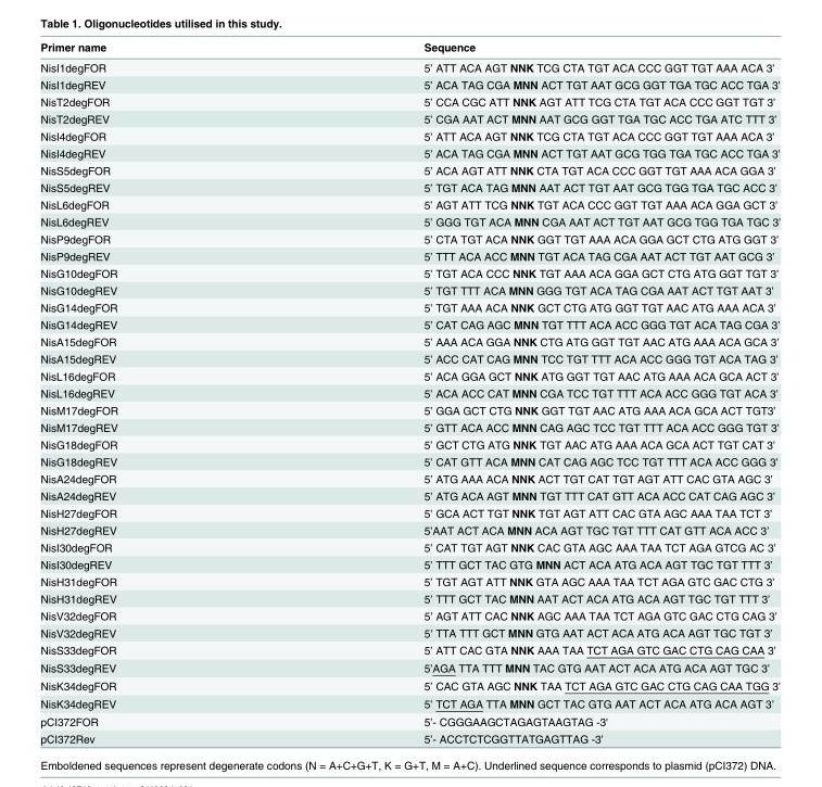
<table><thead><tr><td>Primer name</td><td>Sequence</td></tr></thead><tbody><tr><td>NisI1degFOR</td><td>5’ ATT ACA AGT NNK TCG CTA TGT ACA CCC GGT TGT AAA ACA 3’</td></tr><tr><td>NisI1degREV</td><td>5’ ACA TAG CGA MNN ACT TGT AAT GCG GGT TGA TGC ACC TGA 3’</td></tr><tr><td>NisT2degFOR</td><td>5’ CCA CGC ATT NNK AGT ATT TCG CTA TGT ACA CCC GGT TGT 3’</td></tr><tr><td>NisT2degREV</td><td>5’ CGA AAT ACT MNN AAT GCG GGT TGA TGC ACC TGA ATC TTT 3’</td></tr><tr><td>NisI4degFOR</td><td>5’ ATT ACA AGT NNK TCG CTA TGT ACA CCC GGT TGT AAA ACA 3’</td></tr><tr><td>NisI4degREV</td><td>5’ ACA TAG CGA MNN ACT TGT AAT GCG TGG TGA TGC ACC TGA 3’</td></tr><tr><td>NisS5degFOR</td><td>5’ ACA AGT ATT NNK CTA TGT ACA CCC GGT TGT AAA ACA GGA 3’</td></tr><tr><td>NisS5degREV</td><td>5’ TGT ACA TAG MNN AAT ACT TGT AAT GCG TGG TGA TGC ACC 3’</td></tr><tr><td>NisL6degFOR</td><td>5’ AGT ATT TCG NNK TGT ACA CCC GGT TGT AAA ACA GGA GCT 3’</td></tr><tr><td>NisL6degREV</td><td>5’ GGG TGT ACA MNN CGA AAT ACT TGT AAT GCG TGG TGA TGC 3’</td></tr><tr><td>NisP9degFOR</td><td>5’ CTA TGT ACA NNK GGT TGT AAA ACA GGA GCT CTG ATG GGT 3’</td></tr><tr><td>NisP9degREV</td><td>5’ TTT ACA ACC MNN TGT ACA TAG CGA AAT ACT TGT AAT GCG 3’</td></tr><tr><td>NisG10degFOR</td><td>5’ TGT ACA CCC NNK TGT AAA ACA GGA GCT CTG ATG GGT TGT 3’</td></tr><tr><td>NisG10degREV</td><td>5’ TGT TTT ACA MNN GGG TGT ACA TAG CGA AAT ACT TGT AAT 3’</td></tr><tr><td>NisG14degFOR</td><td>5’ TGT AAA ACA NNK GCT CTG ATG GGT TGT AAC ATG AAA ACA 3’</td></tr><tr><td>NisG14degREV</td><td>5’ CAT CAG AGC MNN TGT TTT ACA ACC GGG TGT ACA TAG CGA 3’</td></tr><tr><td>NisA15degFOR</td><td>5’ AAA ACA GGA NNK CTG ATG GGT TGT AAC ATG AAA ACA GCA 3’</td></tr><tr><td>NisA15degREV</td><td>5’ ACC CAT CAG MNN TCC TGT TTT ACA ACC GGG TGT ACA TAG 3’</td></tr><tr><td>NisL16degFOR</td><td>5’ ACA GGA GCT NNK ATG GGT TGT AAC ATG AAA ACA GCA ACT 3’</td></tr><tr><td>NisL16degREV</td><td>5’ ACA ACC CAT MNN CGA TCC TGT TTT ACA ACC GGG TGT ACA 3’</td></tr><tr><td>NisM17degFOR</td><td>5’ GGA GCT CTG NNK GGT TGT AAC ATG AAA ACA GCA ACT TGT3’</td></tr><tr><td>NisM17degREV</td><td>5’ GTT ACA ACC MNN CAG AGC TCC TGT TTT ACA ACC GGG TGT 3’</td></tr><tr><td>NisG18degFOR</td><td>5’ GCT CTG ATG NNK TGT AAC ATG AAA ACA GCA ACT TGT CAT 3’</td></tr><tr><td>NisG18degREV</td><td>5’ CAT GTT ACA MNN CAT CAG AGC TCC TGT TTT ACA ACC GGG 3’</td></tr><tr><td>NisA24degFOR</td><td>5’ ATG AAA ACA NNK ACT TGT CAT TGT AGT ATT CAC GTA AGC 3’</td></tr><tr><td>NisA24degREV</td><td>5’ ATG ACA AGT MNN TGT TTT CAT GTT ACA ACC CAT CAG AGC 3’</td></tr><tr><td>NisH27degFOR</td><td>5’ GCA ACT TGT NNK TGT AGT ATT CAC GTA AGC AAA TAA TCT 3’</td></tr><tr><td>NisH27degREV</td><td>5’AAT ACT ACA MNN ACA AGT TGC TGT TTT CAT GTT ACA ACC 3’</td></tr><tr><td>NisI30degFOR</td><td>5’ CAT TGT AGT NNK CAC GTA AGC AAA TAA TCT AGA GTCG AC 3’</td></tr><tr><td>NisI30degREV</td><td>5’ TTT GCT TAC GTG MNN ACT ACA ATG ACA AGT TGC TGT TTT 3’</td></tr><tr><td>NisH31degFOR</td><td>5’ TGT AGT ATT NNK GTA AGC AAA TAA TCT AGA GTC GAC CTG 3’</td></tr><tr><td>NisH31degREV</td><td>5’ TTT GCT TAC MNN AAT ACT ACA ATG ACA AGT TGC TGT TTT 3’</td></tr><tr><td>NisV32degFOR</td><td>5’ AGT ATT CAC NNK AGC AAA TAA TCT AGA GTC GAC CTG CAG 3’</td></tr><tr><td>NisV32degREV</td><td>5’ TTA TTT GCT MNN GTG AAT ACT ACA ATG ACA AGT TGC TGT 3’</td></tr><tr><td>NisS33degFOR</td><td>5’ ATT CAC GTA NNK AAA TAA TCT AGA GTC GAC CTG CAG CAA 3’</td></tr><tr><td>NisS33degREV</td><td>5’AGA TTA TTT MNN TAC GTG AAT ACT ACA ATG ACA AGT TGC 3’</td></tr><tr><td>NisK34degFOR</td><td>5’ CAC GTA AGC NNK TAA TCT AGA GTC GAC CTG CAG CAA TGG 3’</td></tr><tr><td>NisK34degREV</td><td>5’ TCT AGA TTA MNN GCT TAC GTG AAT ACT ACA ATG ACA AGT 3’</td></tr><tr><td>pCI372FOR</td><td>5’- CGGGAAGCTAGAGTAAGTAG -3&#x27;</td></tr><tr><td>pCI372Rev</td><td>5’- ACCTCTCGGTTATGAGTTAG -3’</td></tr></tbody></table>